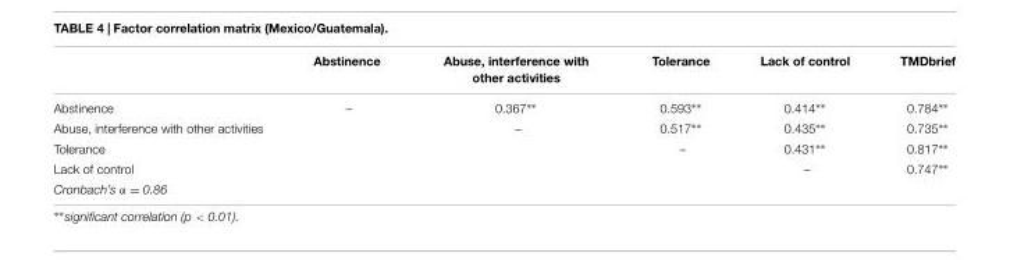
<table><thead><tr><td></td><td>Abstinence</td><td>Abuse, interference with other activities</td><td>Tolerance</td><td>Lack of control</td><td>TMDbrief</td></tr></thead><tbody><tr><td>Abstinence</td><td>–</td><td>0.367∗∗</td><td>0.593∗∗</td><td>0.414∗∗</td><td>0.784∗∗</td></tr><tr><td>Abuse, interference with other activities</td><td></td><td>–</td><td>0.517∗∗</td><td>0.435∗∗</td><td>0.735∗∗</td></tr><tr><td>Tolerance</td><td></td><td></td><td>–</td><td>0.431∗∗</td><td>0.817∗∗</td></tr><tr><td>Lack of control</td><td></td><td></td><td></td><td>–</td><td>0.747∗∗</td></tr><tr><td>Cronbach’s α = 0.86</td><td></td><td></td><td></td><td></td><td></td></tr></tbody></table>